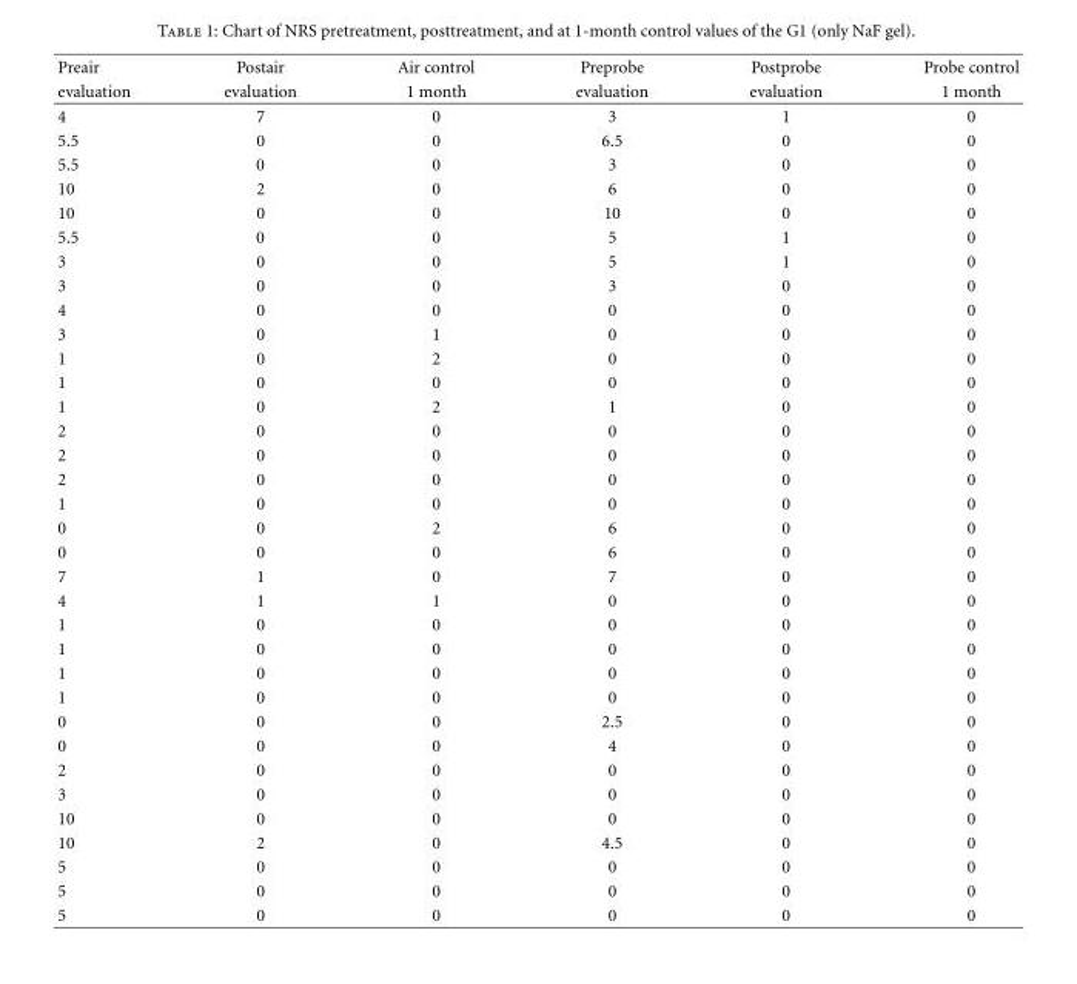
<table><thead><tr><td rowspan="2">Preair evaluation</td><td rowspan="2">Postair evaluation</td><td rowspan="2">Air control 1 month</td><td rowspan="2">Preprobe evaluation</td><td rowspan="2">Postprobe evaluation</td><td rowspan="2">Probe control 1 month</td></tr><tr></tr></thead><tbody><tr><td>4</td><td>7</td><td>0</td><td>3</td><td>1</td><td>0</td></tr><tr><td>5.5</td><td>0</td><td>0</td><td>6.5</td><td>0</td><td>0</td></tr><tr><td>5.5</td><td>0</td><td>0</td><td>3</td><td>0</td><td>0</td></tr><tr><td>10</td><td>2</td><td>0</td><td>6</td><td>0</td><td>0</td></tr><tr><td>10</td><td>0</td><td>0</td><td>10</td><td>0</td><td>0</td></tr><tr><td>5.5</td><td>0</td><td>0</td><td>5</td><td>1</td><td>0</td></tr><tr><td>3</td><td>0</td><td>0</td><td>5</td><td>1</td><td>0</td></tr><tr><td>3</td><td>0</td><td>0</td><td>3</td><td>0</td><td>0</td></tr><tr><td>4</td><td>0</td><td>0</td><td>0</td><td>0</td><td>0</td></tr><tr><td>3</td><td>0</td><td>1</td><td>0</td><td>0</td><td>0</td></tr><tr><td>1</td><td>0</td><td>2</td><td>0</td><td>0</td><td>0</td></tr><tr><td>1</td><td>0</td><td>0</td><td>0</td><td>0</td><td>0</td></tr><tr><td>1</td><td>0</td><td>2</td><td>1</td><td>0</td><td>0</td></tr><tr><td>2</td><td>0</td><td>0</td><td>0</td><td>0</td><td>0</td></tr><tr><td>2</td><td>0</td><td>0</td><td>0</td><td>0</td><td>0</td></tr><tr><td>2</td><td>0</td><td>0</td><td>0</td><td>0</td><td>0</td></tr><tr><td>1</td><td>0</td><td>0</td><td>0</td><td>0</td><td>0</td></tr><tr><td>0</td><td>0</td><td>2</td><td>6</td><td>0</td><td>0</td></tr><tr><td>0</td><td>0</td><td>0</td><td>6</td><td>0</td><td>0</td></tr><tr><td>7</td><td>1</td><td>0</td><td>7</td><td>0</td><td>0</td></tr><tr><td>4</td><td>1</td><td>1</td><td>0</td><td>0</td><td>0</td></tr><tr><td>1</td><td>0</td><td>0</td><td>0</td><td>0</td><td>0</td></tr><tr><td>1</td><td>0</td><td>0</td><td>0</td><td>0</td><td>0</td></tr><tr><td>1</td><td>0</td><td>0</td><td>0</td><td>0</td><td>0</td></tr><tr><td>1</td><td>0</td><td>0</td><td>0</td><td>0</td><td>0</td></tr><tr><td>0</td><td>0</td><td>0</td><td>2.5</td><td>0</td><td>0</td></tr><tr><td>0</td><td>0</td><td>0</td><td>4</td><td>0</td><td>0</td></tr><tr><td>2</td><td>0</td><td>0</td><td>0</td><td>0</td><td>0</td></tr><tr><td>3</td><td>0</td><td>0</td><td>0</td><td>0</td><td>0</td></tr><tr><td>10</td><td>0</td><td>0</td><td>0</td><td>0</td><td>0</td></tr><tr><td>10</td><td>2</td><td>0</td><td>4.5</td><td>0</td><td>0</td></tr><tr><td>5</td><td>0</td><td>0</td><td>0</td><td>0</td><td>0</td></tr><tr><td>5</td><td>0</td><td>0</td><td>0</td><td>0</td><td>0</td></tr><tr><td>5</td><td>0</td><td>0</td><td>0</td><td>0</td><td>0</td></tr></tbody></table>